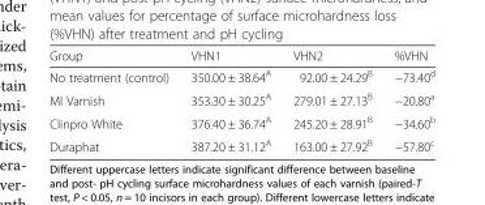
<table><thead><tr><td>Group</td><td>VHN1</td><td>VHN2</td><td>%VHN</td></tr></thead><tbody><tr><td>No treatment (control)</td><td>350.00 ± 38.64<sup>A</sup></td><td>92.00 ± 24.29<sup>B</sup></td><td>−73.40<sup>d</sup></td></tr><tr><td>MI Varnish</td><td>353.30 ± 30.25<sup>A</sup></td><td>279.01 ± 27.13<sup>B</sup></td><td>−20.80<sup>a</sup></td></tr><tr><td>Clinpro White</td><td>376.40 ± 36.74<sup>A</sup></td><td>245.20 ± 28.91<sup>B</sup></td><td>−34.60<sup>b</sup></td></tr><tr><td>Duraphat</td><td>387.20 ± 31.12<sup>A</sup></td><td>163.00 ± 27.92<sup>B</sup></td><td>−57.80<sup>c</sup></td></tr></tbody></table>